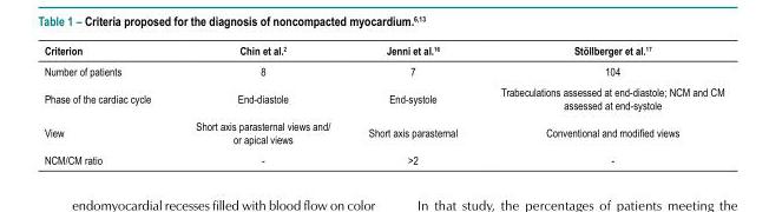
<table><thead><tr><td>Criterion</td><td>Chin et al.<sup>2</sup></td><td>Jenni et al.<sup>16</sup></td><td>Stöllberger et al.<sup>17</sup></td></tr></thead><tbody><tr><td>Number of patients</td><td>8</td><td>7</td><td>104</td></tr><tr><td>Phase of the cardiac cycle</td><td>End-diastole</td><td>End-systole</td><td>Trabeculations assessed at end-diastole; NCM and CM assessed at end-systole</td></tr><tr><td>View</td><td>Short axis parasternal views and/ or apical views</td><td>Short axis parasternal</td><td>Conventional and modified views</td></tr><tr><td>NCM/CM ratio</td><td>-</td><td>&gt;2</td><td>-</td></tr></tbody></table>